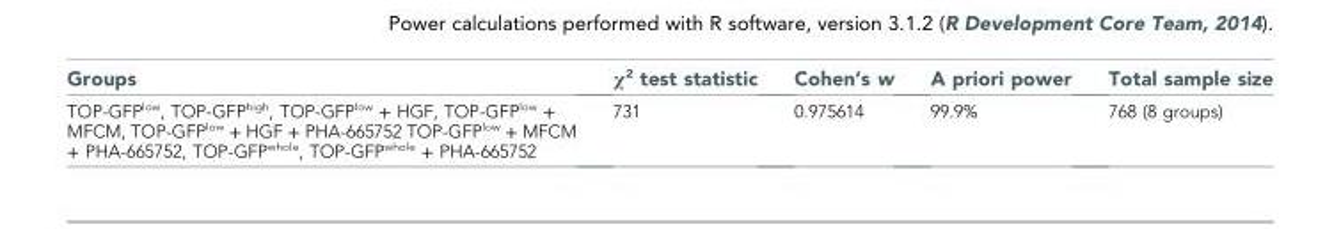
<table><thead><tr><td>Groups</td><td>χ<sup>2</sup> test statistic</td><td>Cohen’s w</td><td>A priori power</td><td>Total sample size</td></tr></thead><tbody><tr><td>TOP-GFP<sup>low</sup>, TOP-GFP<sup>high</sup>, TOP-GFP<sup>low</sup> + HGF, TOP-GFP<sup>low</sup> + MFCM, TOP-GFP<sup>low</sup> + HGF + PHA-665752 TOP-GFP<sup>low</sup> + MFCM + PHA-665752, TOP-GFP<sup>whole</sup>, TOP-GFP<sup>whole</sup> + PHA-665752</td><td>731</td><td>0.975614</td><td>99.9%</td><td>768 (8 groups)</td></tr></tbody></table>